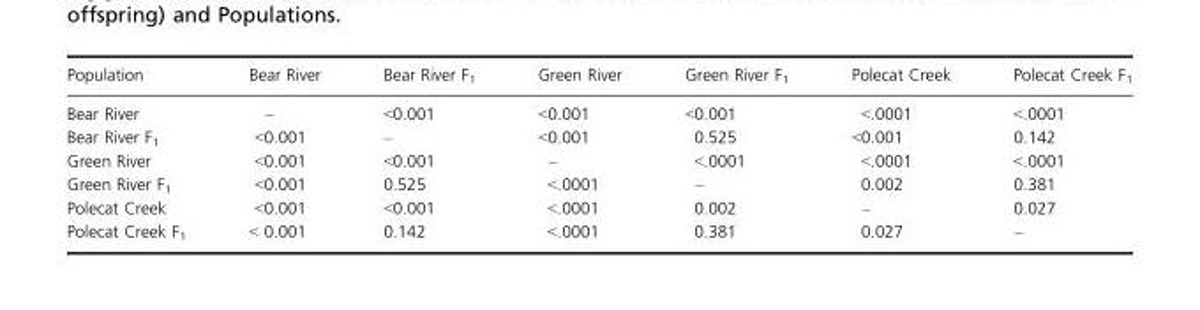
<table><thead><tr><td>Population</td><td>Bear River</td><td>Bear River F<sub>1</sub></td><td>Green River</td><td>Green River F<sub>1</sub></td><td>Polecat Creek</td><td>Polecat Creek F<sub>1</sub></td></tr></thead><tbody><tr><td>Bear River</td><td>–</td><td>&lt;0.001</td><td>&lt;0.001</td><td>&lt;0.001</td><td>&lt;.0001</td><td>&lt;.0001</td></tr><tr><td>Bear River F<sub>1</sub></td><td>&lt;0.001</td><td>–</td><td>&lt;0.001</td><td>0.525</td><td>&lt;0.001</td><td>0.142</td></tr><tr><td>Green River</td><td>&lt;0.001</td><td>&lt;0.001</td><td>–</td><td>&lt;.0001</td><td>&lt;.0001</td><td>&lt;.0001</td></tr><tr><td>Green River F<sub>1</sub></td><td>&lt;0.001</td><td>0.525</td><td>&lt;.0001</td><td>–</td><td>0.002</td><td>0.381</td></tr><tr><td>Polecat Creek</td><td>&lt;0.001</td><td>&lt;0.001</td><td>&lt;.0001</td><td>0.002</td><td>–</td><td>0.027</td></tr><tr><td>Polecat Creek F<sub>1</sub></td><td>&lt; 0.001</td><td>0.142</td><td>&lt;.0001</td><td>0.381</td><td>0.027</td><td>–</td></tr></tbody></table>